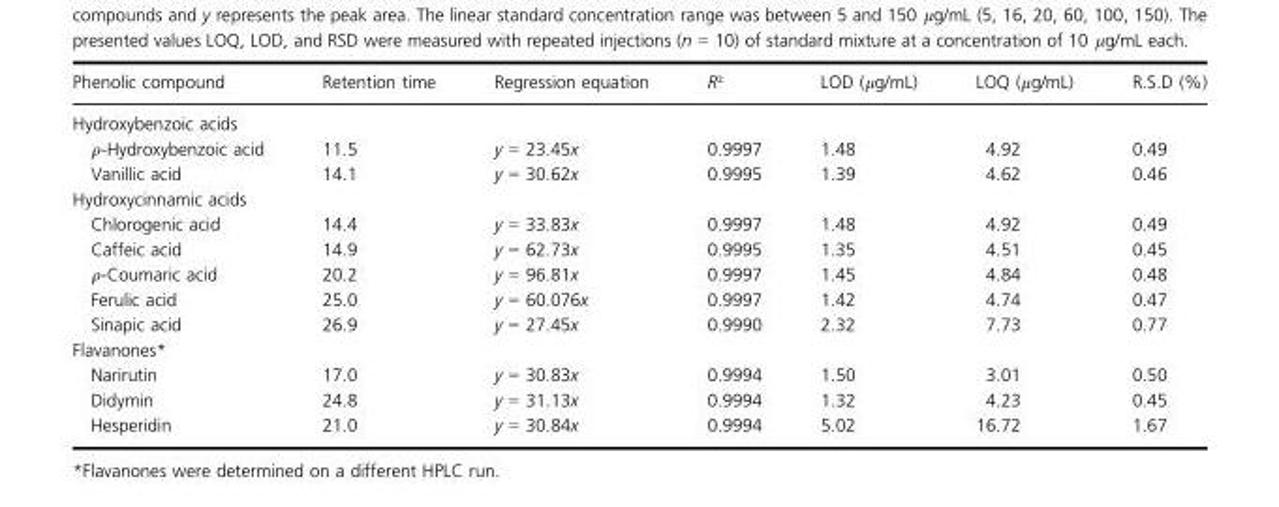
<table><thead><tr><td>Phenolic compound</td><td>Retention time</td><td>Regression equation</td><td>R²</td><td>LOD (μg/mL)</td><td>LOQ (μg/mL)</td><td>R.S.D (%)</td></tr></thead><tbody><tr><td colspan="7">Hydroxybenzoic acids</td></tr><tr><td>ρ-Hydroxybenzoic acid</td><td>11.5</td><td>y = 23.45x</td><td>0.9997</td><td>1.48</td><td>4.92</td><td>0.49</td></tr><tr><td>Vanillic acid</td><td>14.1</td><td>y = 30.62x</td><td>0.9995</td><td>1.39</td><td>4.62</td><td>0.46</td></tr><tr><td colspan="7">Hydroxycinnamic acids</td></tr><tr><td>Chlorogenic acid</td><td>14.4</td><td>y = 33.83x</td><td>0.9997</td><td>1.48</td><td>4.92</td><td>0.49</td></tr><tr><td>Caffeic acid</td><td>14.9</td><td>y = 62.73x</td><td>0.9995</td><td>1.35</td><td>4.51</td><td>0.45</td></tr><tr><td>ρ-Coumaric acid</td><td>20.2</td><td>y = 96.81x</td><td>0.9997</td><td>1.45</td><td>4.84</td><td>0.48</td></tr><tr><td>Ferulic acid</td><td>25.0</td><td>y = 60.076x</td><td>0.9997</td><td>1.42</td><td>4.74</td><td>0.47</td></tr><tr><td>Sinapic acid</td><td>26.9</td><td>y = 27.45x</td><td>0.9990</td><td>2.32</td><td>7.73</td><td>0.77</td></tr><tr><td colspan="7">Flavanones*</td></tr><tr><td>Narirutin</td><td>17.0</td><td>y = 30.83x</td><td>0.9994</td><td>1.50</td><td>3.01</td><td>0.50</td></tr><tr><td>Didymin</td><td>24.8</td><td>y = 31.13x</td><td>0.9994</td><td>1.32</td><td>4.23</td><td>0.45</td></tr><tr><td>Hesperidin</td><td>21.0</td><td>y = 30.84x</td><td>0.9994</td><td>5.02</td><td>16.72</td><td>1.67</td></tr></tbody></table>